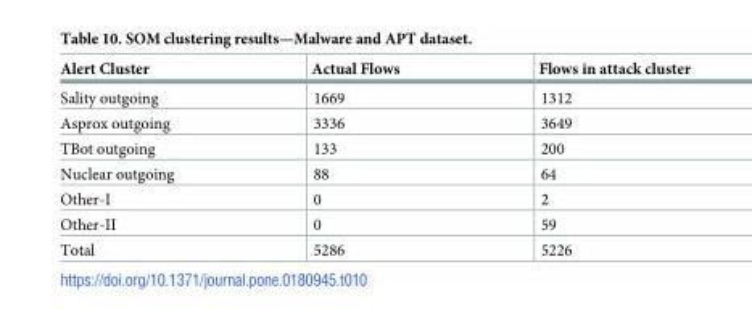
<table><thead><tr><td>Alert Cluster</td><td>Actual Flows</td><td>Flows in attack cluster</td></tr></thead><tbody><tr><td>Sality outgoing</td><td>1669</td><td>1312</td></tr><tr><td>Asprox outgoing</td><td>3336</td><td>3649</td></tr><tr><td>TBot outgoing</td><td>133</td><td>200</td></tr><tr><td>Nuclear outgoing</td><td>88</td><td>64</td></tr><tr><td>Other-I</td><td>0</td><td>2</td></tr><tr><td>Other-II</td><td>0</td><td>59</td></tr><tr><td>Total</td><td>5286</td><td>5226</td></tr></tbody></table>